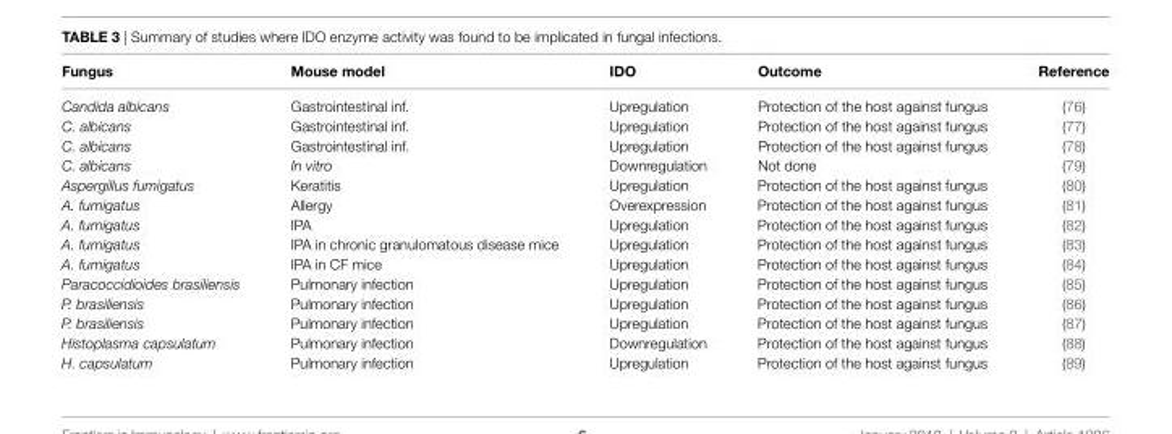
<table><thead><tr><td>Fungus</td><td>Mouse model</td><td>iDO</td><td>Outcome</td><td>Reference</td></tr></thead><tbody><tr><td>Candida albicans</td><td>Gastrointestinal inf.</td><td>Upregulation</td><td>Protection of the host against fungus</td><td>(76)</td></tr><tr><td>C. albicans</td><td>Gastrointestinal inf.</td><td>Upregulation</td><td>Protection of the host against fungus</td><td>(77)</td></tr><tr><td>C. albicans</td><td>Gastrointestinal inf.</td><td>Upregulation</td><td>Protection of the host against fungus</td><td>(78)</td></tr><tr><td>C. albicans</td><td>In vitro</td><td>Downregulation</td><td>Not done</td><td>(79)</td></tr><tr><td>Aspergillus fumigatus</td><td>Keratitis</td><td>Upregulation</td><td>Protection of the host against fungus</td><td>(80)</td></tr><tr><td>A. fumigatus</td><td>Allergy</td><td>Overexpression</td><td>Protection of the host against fungus</td><td>(81)</td></tr><tr><td>A. fumigatus</td><td>IPA</td><td>Upregulation</td><td>Protection of the host against fungus</td><td>(82)</td></tr><tr><td>A. fumigatus</td><td>IPA in chronic granulomatous disease mice</td><td>Upregulation</td><td>Protection of the host against fungus</td><td>(83)</td></tr><tr><td>A. fumigatus</td><td>IPA in CF mice</td><td>Upregulation</td><td>Protection of the host against fungus</td><td>(84)</td></tr><tr><td>Paracoccidioides brasiliensis</td><td>Pulmonary infection</td><td>Upregulation</td><td>Protection of the host against fungus</td><td>(85)</td></tr><tr><td>P. brasiliensis</td><td>Pulmonary infection</td><td>Upregulation</td><td>Protection of the host against fungus</td><td>(86)</td></tr><tr><td>P. brasiliensis</td><td>Pulmonary infection</td><td>Upregulation</td><td>Protection of the host against fungus</td><td>(87)</td></tr><tr><td>Histoplasma capsulatum</td><td>Pulmonary infection</td><td>Downregulation</td><td>Protection of the host against fungus</td><td>(88)</td></tr><tr><td>H. capsulatum</td><td>Pulmonary infection</td><td>Upregulation</td><td>Protection of the host against fungus</td><td>(89)</td></tr></tbody></table>